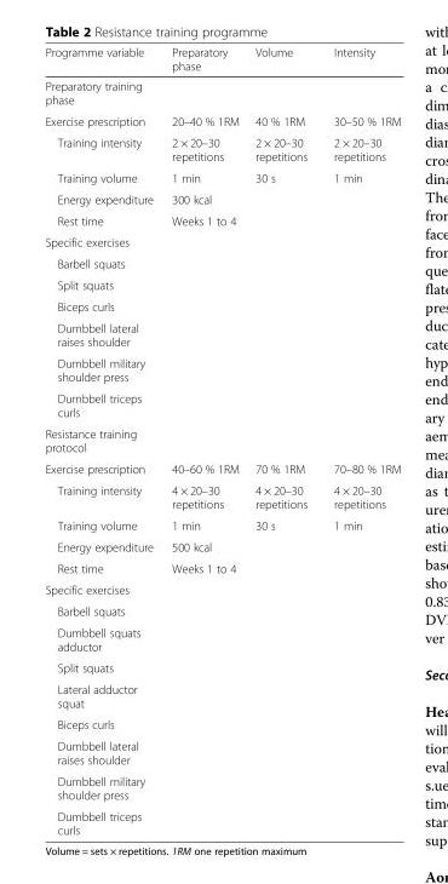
<table><thead><tr><td>Programme variable</td><td>Preparatory phase</td><td>Volume</td><td>Intensity</td></tr></thead><tbody><tr><td colspan="4">Preparatory training phase</td></tr><tr><td>Exercise prescription</td><td>20–40 % 1RM</td><td>40 % 1RM</td><td>30–50 % 1RM</td></tr><tr><td>Training intensity</td><td>2 × 20–30 repetitions</td><td>2 × 20–30 repetitions</td><td>2 × 20–30 repetitions</td></tr><tr><td>Training volume</td><td>1 min</td><td>30 s</td><td>1 min</td></tr><tr><td>Energy expenditure</td><td colspan="3">300 kcal</td></tr><tr><td>Rest time</td><td colspan="3">Weeks 1 to 4</td></tr><tr><td colspan="4">Specific exercises</td></tr><tr><td colspan="4">Barbell squats</td></tr><tr><td colspan="4">Split squats</td></tr><tr><td colspan="4">Biceps curls</td></tr><tr><td colspan="4">Dumbbell lateral raises shoulder</td></tr><tr><td colspan="4">Dumbbell military shoulder press</td></tr><tr><td colspan="4">Dumbbell triceps curls</td></tr><tr><td colspan="4">Resistance training protocol</td></tr><tr><td>Exercise prescription</td><td>40–60 % 1RM</td><td>70 % 1RM</td><td>70–80 % 1RM</td></tr><tr><td>Training intensity</td><td>4 × 20–30 repetitions</td><td>4 × 20–30 repetitions</td><td>4 × 20–30 repetitions</td></tr><tr><td>Training volume</td><td>1 min</td><td>30 s</td><td>1 min</td></tr><tr><td>Energy expenditure</td><td colspan="3">500 kcal</td></tr><tr><td>Rest time</td><td colspan="3">Weeks 1 to 4</td></tr><tr><td colspan="4">Specific exercises</td></tr><tr><td colspan="4">Barbell squats</td></tr><tr><td colspan="4">Dumbbell squats adductor</td></tr><tr><td colspan="4">Split squats</td></tr><tr><td colspan="4">Lateral adductor squat</td></tr><tr><td colspan="4">Biceps curls</td></tr><tr><td colspan="4">Dumbbell lateral raises shoulder</td></tr><tr><td colspan="4">Dumbbell military shoulder press</td></tr><tr><td>Dumbbell triceps curls</td><td></td><td></td><td></td></tr></tbody></table>